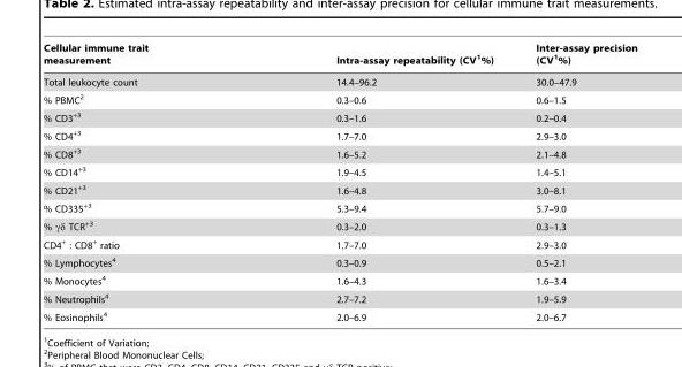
<table><thead><tr><td>Cellular immune trait measurement</td><td>Intra-assay repeatability (CV<sup>1</sup>%)</td><td>Inter-assay precision (CV<sup>1</sup>%)</td></tr></thead><tbody><tr><td>Total leukocyte count</td><td>14.4–96.2</td><td>30.0–47.9</td></tr><tr><td>% PBMC<sup>2</sup></td><td>0.3–0.6</td><td>0.6–1.5</td></tr><tr><td>% CD3<sup>+3</sup></td><td>0.3–1.6</td><td>0.2–0.4</td></tr><tr><td>% CD4<sup>+3</sup></td><td>1.7–7.0</td><td>2.9–3.0</td></tr><tr><td>% CD8<sup>+3</sup></td><td>1.6–5.2</td><td>2.1–4.8</td></tr><tr><td>% CD14<sup>+3</sup></td><td>1.9–4.5</td><td>1.4–5.1</td></tr><tr><td>% CD21<sup>+3</sup></td><td>1.6–4.8</td><td>3.0–8.1</td></tr><tr><td>% CD335<sup>+3</sup></td><td>5.3–9.4</td><td>5.7–9.0</td></tr><tr><td>% γδ TCR<sup>+3</sup></td><td>0.3–2.0</td><td>0.3–1.3</td></tr><tr><td>CD4<sup>+</sup> : CD8<sup>+</sup> ratio</td><td>1.7–7.0</td><td>2.9–3.0</td></tr><tr><td>% Lymphocytes<sup>4</sup></td><td>0.3–0.9</td><td>0.5–2.1</td></tr><tr><td>% Monocytes<sup>4</sup></td><td>1.6–4.3</td><td>1.6–3.4</td></tr><tr><td>% Neutrophils<sup>4</sup></td><td>2.7–7.2</td><td>1.9–5.9</td></tr><tr><td>% Eosinophils<sup>4</sup></td><td>2.0–6.9</td><td>2.0–6.7</td></tr></tbody></table>